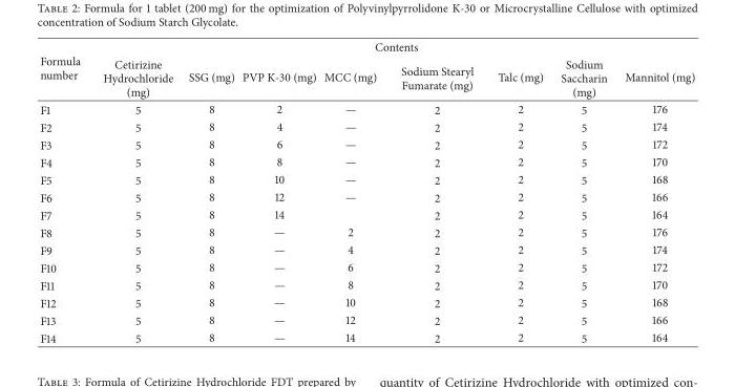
<table><thead><tr><td rowspan="2">Formula number</td><td colspan="8">Contents</td></tr><tr><td>Cetirizine Hydrochloride (mg)</td><td>SSG (mg)</td><td>PVP K-30 (mg)</td><td>MCC (mg)</td><td>Sodium Stearyl Fumarate (mg)</td><td>Talc (mg)</td><td>Sodium Saccharin (mg)</td><td>Mannitol (mg)</td></tr></thead><tbody><tr><td>F1</td><td>5</td><td>8</td><td>2</td><td>—</td><td>2</td><td>2</td><td>5</td><td>176</td></tr><tr><td>F2</td><td>5</td><td>8</td><td>4</td><td>—</td><td>2</td><td>2</td><td>5</td><td>174</td></tr><tr><td>F3</td><td>5</td><td>8</td><td>6</td><td>—</td><td>2</td><td>2</td><td>5</td><td>172</td></tr><tr><td>F4</td><td>5</td><td>8</td><td>8</td><td>—</td><td>2</td><td>2</td><td>5</td><td>170</td></tr><tr><td>F5</td><td>5</td><td>8</td><td>10</td><td>—</td><td>2</td><td>2</td><td>5</td><td>168</td></tr><tr><td>F6</td><td>5</td><td>8</td><td>12</td><td>—</td><td>2</td><td>2</td><td>5</td><td>166</td></tr><tr><td>F7</td><td>5</td><td>8</td><td>14</td><td></td><td>2</td><td>2</td><td>5</td><td>164</td></tr><tr><td>F8</td><td>5</td><td>8</td><td>—</td><td>2</td><td>2</td><td>2</td><td>5</td><td>176</td></tr><tr><td>F9</td><td>5</td><td>8</td><td>—</td><td>4</td><td>2</td><td>2</td><td>5</td><td>174</td></tr><tr><td>F10</td><td>5</td><td>8</td><td>—</td><td>6</td><td>2</td><td>2</td><td>5</td><td>172</td></tr><tr><td>F11</td><td>5</td><td>8</td><td>—</td><td>8</td><td>2</td><td>2</td><td>5</td><td>170</td></tr><tr><td>F12</td><td>5</td><td>8</td><td>—</td><td>10</td><td>2</td><td>2</td><td>5</td><td>168</td></tr><tr><td>F13</td><td>5</td><td>8</td><td>—</td><td>12</td><td>2</td><td>2</td><td>5</td><td>166</td></tr><tr><td>F14</td><td>5</td><td>8</td><td>—</td><td>14</td><td>2</td><td>2</td><td>5</td><td>164</td></tr></tbody></table>